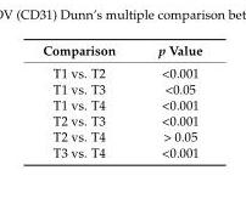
<table><thead><tr><td>Comparison</td><td>p Value</td></tr></thead><tbody><tr><td>T1 vs. T2</td><td>&lt;0.001</td></tr><tr><td>T1 vs. T3</td><td>&lt;0.05</td></tr><tr><td>T1 vs. T4</td><td>&lt;0.001</td></tr><tr><td>T2 vs. T3</td><td>&lt;0.001</td></tr><tr><td>T2 vs. T4</td><td>&gt; 0.05</td></tr><tr><td>T3 vs. T4</td><td>&lt;0.001</td></tr></tbody></table>